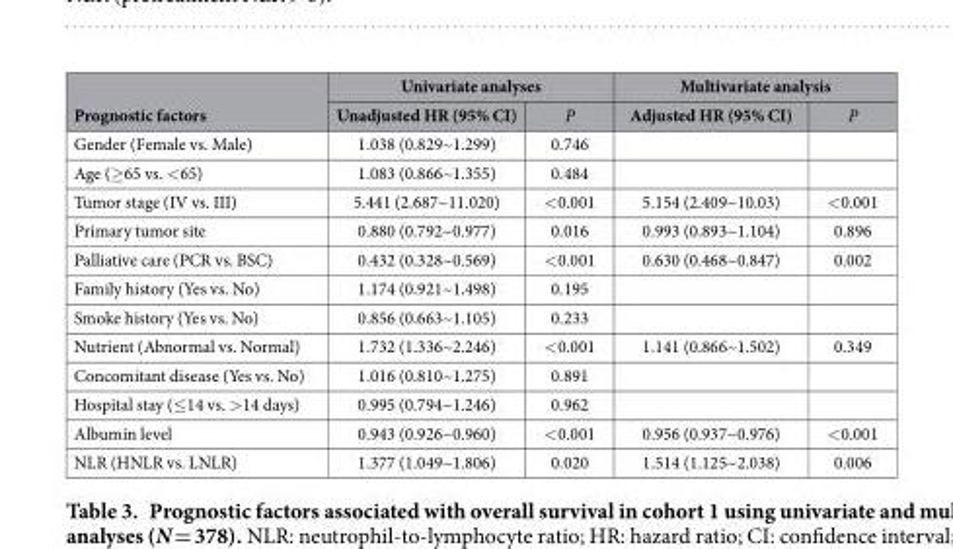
<table><thead><tr><td rowspan="2">Prognostic factors</td><td colspan="2">Univariate analyses</td><td colspan="2">Multivariate analysis</td></tr><tr><td>Unadjusted HR (95% CI)</td><td>P</td><td>Adjusted HR (95% CI)</td><td>P</td></tr></thead><tbody><tr><td>Gender (Female vs. Male)</td><td>1.038 (0.829~1.299)</td><td>0.746</td><td></td><td></td></tr><tr><td>Age (≥ 65 vs. &lt; 65)</td><td>1.083 (0.866~1.355)</td><td>0.484</td><td></td><td></td></tr><tr><td>Tumor stage (IV vs. III)</td><td>5.441 (2.687~11.020)</td><td>&lt; 0.001</td><td>5.154 (2.409~10.03)</td><td>&lt; 0.001</td></tr><tr><td>Primary tumor site</td><td>0.880 (0.792~0.977)</td><td>0.016</td><td>0.993 (0.893~1.104)</td><td>0.896</td></tr><tr><td>Palliative care (PCR vs. BSC)</td><td>0.432 (0.328~0.569)</td><td>&lt; 0.001</td><td>0.630 (0.468~0.847)</td><td>0.002</td></tr><tr><td>Family history (Yes vs. No)</td><td>1.174 (0.921~1.498)</td><td>0.195</td><td></td><td></td></tr><tr><td>Smoke history (Yes vs. No)</td><td>0.856 (0.663~1.105)</td><td>0.233</td><td></td><td></td></tr><tr><td>Nutrient (Abnormal vs. Normal)</td><td>1.732 (1.336~2.246)</td><td>&lt; 0.001</td><td>1.141 (0.866~1.502)</td><td>0.349</td></tr><tr><td>Concomitant disease (Yes vs. No)</td><td>1.016 (0.810~1.275)</td><td>0.891</td><td></td><td></td></tr><tr><td>Hospital stay (≤ 14 vs. &gt; 14 days)</td><td>0.995 (0.794~1.246)</td><td>0.962</td><td></td><td></td></tr><tr><td>Albumin level</td><td>0.943 (0.926~0.960)</td><td>&lt; 0.001</td><td>0.956 (0.937~0.976)</td><td>&lt; 0.001</td></tr><tr><td>NLR (HNLR vs. LNLR)</td><td>1.377 (1.049~1.806)</td><td>0.020</td><td>1.514 (1.125~2.038)</td><td>0.006</td></tr></tbody></table>